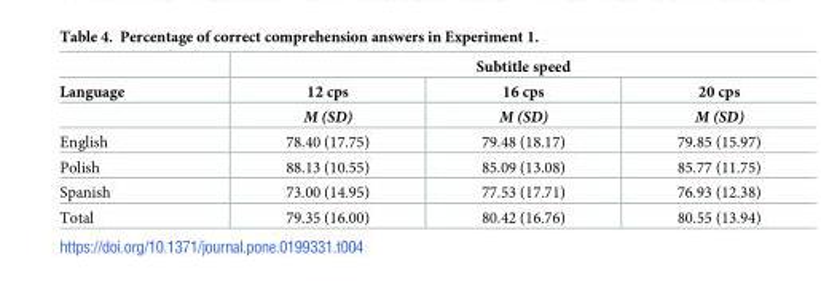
<table><thead><tr><td rowspan="3">Language</td><td colspan="3">Subtitle speed</td></tr><tr><td rowspan="2">12 cps M (SD)</td><td rowspan="2">16 cps M (SD)</td><td rowspan="2">20 cps M (SD)</td></tr><tr></tr></thead><tbody><tr><td>English</td><td>78.40 (17.75)</td><td>79.48 (18.17)</td><td>79.85 (15.97)</td></tr><tr><td>Polish</td><td>88.13 (10.55)</td><td>85.09 (13.08)</td><td>85.77 (11.75)</td></tr><tr><td>Spanish</td><td>73.00 (14.95)</td><td>77.53 (17.71)</td><td>76.93 (12.38)</td></tr><tr><td>Total</td><td>79.35 (16.00)</td><td>80.42 (16.76)</td><td>80.55 (13.94)</td></tr></tbody></table>